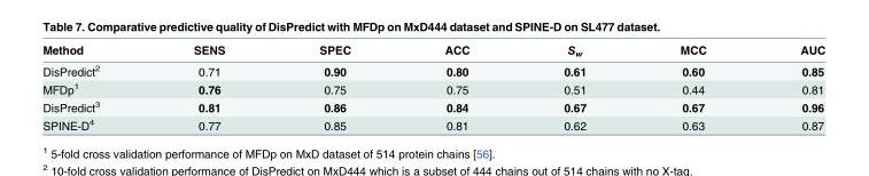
<table><thead><tr><td>Method</td><td>SENS</td><td>SPEC</td><td>ACC</td><td>S<sub>w</sub></td><td>MCC</td><td>AUC</td></tr></thead><tbody><tr><td>DisPredict<sup>2</sup></td><td>0.71</td><td>0.90</td><td>0.80</td><td>0.61</td><td>0.60</td><td>0.85</td></tr><tr><td>MFDp<sup>1</sup></td><td>0.76</td><td>0.75</td><td>0.75</td><td>0.51</td><td>0.44</td><td>0.81</td></tr><tr><td>DisPredict<sup>3</sup></td><td>0.81</td><td>0.86</td><td>0.84</td><td>0.67</td><td>0.67</td><td>0.96</td></tr><tr><td>SPINE-D<sup>4</sup></td><td>0.77</td><td>0.85</td><td>0.81</td><td>0.62</td><td>0.63</td><td>0.87</td></tr></tbody></table>